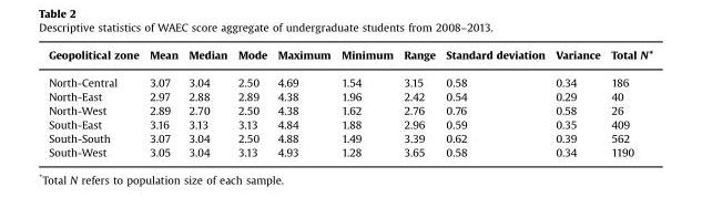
<table><thead><tr><td>Geopolitical zone</td><td>Mean</td><td>Median</td><td>Mode</td><td>Maximum</td><td>Minimum</td><td>Range</td><td>Standard deviation</td><td>Variance</td><td>Total N*</td></tr></thead><tbody><tr><td>North-Central</td><td>3.07</td><td>3.04</td><td>2.50</td><td>4.69</td><td>1.54</td><td>3.15</td><td>0.58</td><td>0.34</td><td>186</td></tr><tr><td>North-East</td><td>2.97</td><td>2.88</td><td>2.89</td><td>4.38</td><td>1.96</td><td>2.42</td><td>0.54</td><td>0.29</td><td>40</td></tr><tr><td>North-West</td><td>2.89</td><td>2.70</td><td>2.50</td><td>4.38</td><td>1.62</td><td>2.76</td><td>0.76</td><td>0.58</td><td>26</td></tr><tr><td>South-East</td><td>3.16</td><td>3.13</td><td>3.13</td><td>4.84</td><td>1.88</td><td>2.96</td><td>0.59</td><td>0.35</td><td>409</td></tr><tr><td>South-South</td><td>3.07</td><td>3.04</td><td>2.50</td><td>4.88</td><td>1.49</td><td>3.39</td><td>0.62</td><td>0.39</td><td>562</td></tr><tr><td>South-West</td><td>3.05</td><td>3.04</td><td>3.13</td><td>4.93</td><td>1.28</td><td>3.65</td><td>0.58</td><td>0.34</td><td>1190</td></tr></tbody></table>